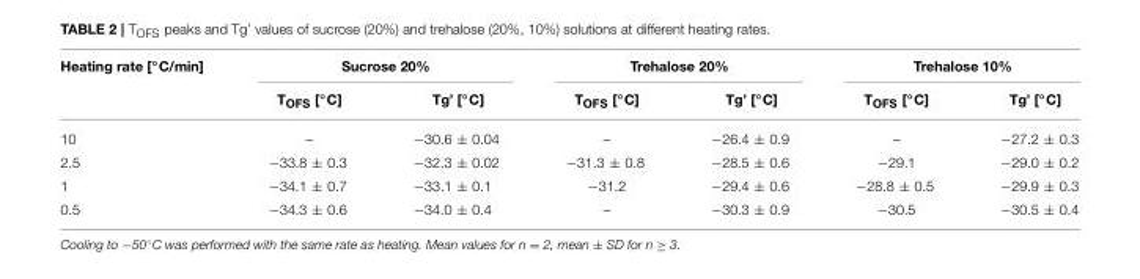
<table><thead><tr><td rowspan="2">Heating rate [◦C/min]</td><td colspan="2">Sucrose 20%</td><td colspan="2">Trehalose 20%</td><td colspan="2">Trehalose 10%</td></tr><tr><td>TOFS [◦C]</td><td>Tg’ [◦C]</td><td>TOFS [◦C]</td><td>Tg’ [◦C]</td><td>TOFS [◦C]</td><td>Tg’ [◦C]</td></tr></thead><tbody><tr><td>10</td><td>–</td><td>−30.6 ± 0.04</td><td>–</td><td>−26.4 ± 0.9</td><td>–</td><td>−27.2 ± 0.3</td></tr><tr><td>2.5</td><td>−33.8 ± 0.3</td><td>−32.3 ± 0.02</td><td>−31.3 ± 0.8</td><td>−28.5 ± 0.6</td><td>−29.1</td><td>−29.0 ± 0.2</td></tr><tr><td>1</td><td>−34.1 ± 0.7</td><td>−33.1 ± 0.1</td><td>−31.2</td><td>−29.4 ± 0.6</td><td>−28.8 ± 0.5</td><td>−29.9 ± 0.3</td></tr><tr><td>0.5</td><td>−34.3 ± 0.6</td><td>−34.0 ± 0.4</td><td>–</td><td>−30.3 ± 0.9</td><td>−30.5</td><td>−30.5 ± 0.4</td></tr></tbody></table>